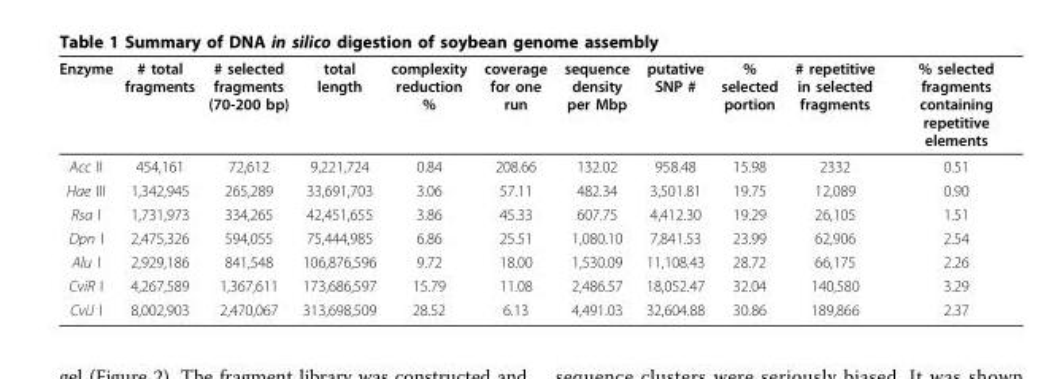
<table><thead><tr><td>Enzyme</td><td># total fragments</td><td># selected fragments (70-200 bp)</td><td>total length</td><td>complexity reduction %</td><td>coverage for one run</td><td>sequence density per Mbp</td><td>putative SNP #</td><td>% selected portion</td><td># repetitive in selected fragments</td><td>% selected fragments containing repetitive elements</td></tr></thead><tbody><tr><td>Acc II</td><td>454,161</td><td>72,612</td><td>9,221,724</td><td>0.84</td><td>208.66</td><td>132.02</td><td>958.48</td><td>15.98</td><td>2332</td><td>0.51</td></tr><tr><td>Hae III</td><td>1,342,945</td><td>265,289</td><td>33,691,703</td><td>3.06</td><td>57.11</td><td>482.34</td><td>3,501.81</td><td>19.75</td><td>12,089</td><td>0.90</td></tr><tr><td>Rsa I</td><td>1,731,973</td><td>334,265</td><td>42,451,655</td><td>3.86</td><td>45.33</td><td>607.75</td><td>4,412.30</td><td>19.29</td><td>26,105</td><td>1.51</td></tr><tr><td>Dpn I</td><td>2,475,326</td><td>594,055</td><td>75,444,985</td><td>6.86</td><td>25.51</td><td>1,080.10</td><td>7,841.53</td><td>23.99</td><td>62,906</td><td>2.54</td></tr><tr><td>Alu I</td><td>2,929,186</td><td>841,548</td><td>106,876,596</td><td>9.72</td><td>18.00</td><td>1,530.09</td><td>11,108.43</td><td>28.72</td><td>66,175</td><td>2.26</td></tr><tr><td>CviR I</td><td>4,267,589</td><td>1,367,611</td><td>173,686,597</td><td>15.79</td><td>11.08</td><td>2,486.57</td><td>18,052.47</td><td>32.04</td><td>140,580</td><td>3.29</td></tr><tr><td>CviJ I</td><td>8,002,903</td><td>2,470,067</td><td>313,698,509</td><td>28.52</td><td>6.13</td><td>4,491.03</td><td>32,604.88</td><td>30.86</td><td>189,866</td><td>2.37</td></tr></tbody></table>